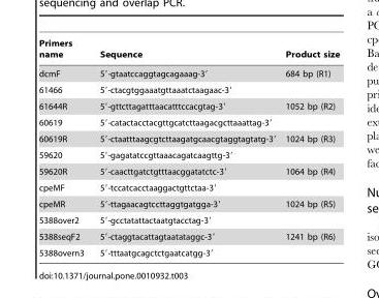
<table><thead><tr><td>Primers name</td><td>Sequence</td><td>Product size</td></tr></thead><tbody><tr><td>dcmF</td><td>5′-gtaatccaggtagcagaaag-3′</td><td>684 bp (R1)</td></tr><tr><td>61466</td><td>5′-ctacgtggaaatgttaaatctaagaac-3′</td><td></td></tr><tr><td>61644R</td><td>5′-gttcttagatttaacatttccacgtag-3′</td><td>1052 bp (R2)</td></tr><tr><td>60619</td><td>5′-catactacctacgttgcatcttaagacgcttaaattag-3′</td><td></td></tr><tr><td>60619R</td><td>5′-ctaatttaagcgtcttaagatgcaacgtaggtagtatg-3′</td><td>1024 bp (R3)</td></tr><tr><td>59620</td><td>5′-gagatatccgttaaacagatcaagttg-3′</td><td></td></tr><tr><td>59620R</td><td>5′-caacttgatctgtttaacggatatctc-3′</td><td>1064 bp (R4)</td></tr><tr><td>cpeMF</td><td>5′-tccatcacctaaggactgttctaa-3′</td><td></td></tr><tr><td>cpeMR</td><td>5′-ttagaacagtccttaggtgatgga-3′</td><td>1024 bp (R5)</td></tr><tr><td>5388over2</td><td>5′-gcctatattactaatgtacctag-3′</td><td></td></tr><tr><td>5388seqF2</td><td>5′-ctaggtacattagtaatataggc-3′</td><td>1241 bp (R6)</td></tr><tr><td>5388overn3</td><td>5′-tttaatgcagctctgaatcatgg-3′</td><td></td></tr></tbody></table>